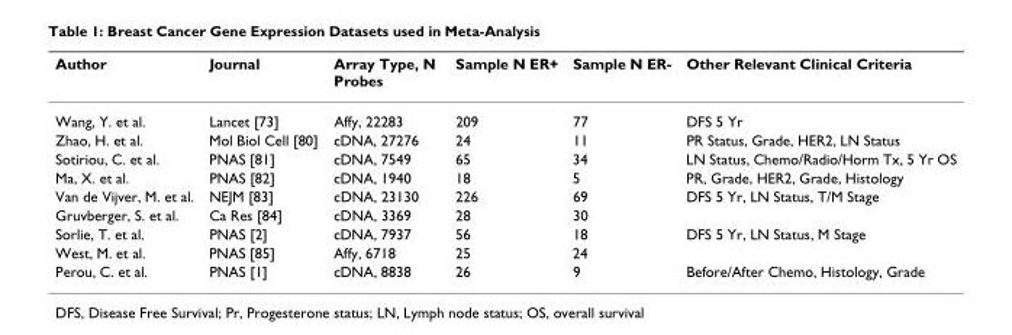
<table><thead><tr><td>Author</td><td>Journal</td><td>Array Type, N Probes</td><td>Sample N ER+</td><td>Sample N ER-</td><td>Other Relevant Clinical Criteria</td></tr></thead><tbody><tr><td>Wang, Y. et al.</td><td>Lancet [73]</td><td>Affy, 22283</td><td>209</td><td>77</td><td>DFS 5 Yr</td></tr><tr><td>Zhao, H. et al.</td><td>Mol Biol Cell [80]</td><td>cDNA, 27276</td><td>24</td><td>11</td><td>PR Status, Grade, HER2, LN Status</td></tr><tr><td>Sotiriou, C. et al.</td><td>PNAS [81]</td><td>cDNA, 7549</td><td>65</td><td>34</td><td>LN Status, Chemo/Radio/Horm Tx, 5 Yr OS</td></tr><tr><td>Ma, X. et al.</td><td>PNAS [82]</td><td>cDNA, 1940</td><td>18</td><td>5</td><td>PR, Grade, HER2, Grade, Histology</td></tr><tr><td>Van de Vijver, M. et al.</td><td>NEJM [83]</td><td>cDNA, 23130</td><td>226</td><td>69</td><td>DFS 5 Yr, LN Status, T/M Stage</td></tr><tr><td>Gruvberger, S. et al.</td><td>Ca Res [84]</td><td>cDNA, 3369</td><td>28</td><td>30</td><td></td></tr><tr><td>Sorlie, T. et al.</td><td>PNAS [2]</td><td>cDNA, 7937</td><td>56</td><td>18</td><td>DFS 5 Yr, LN Status, M Stage</td></tr><tr><td>West, M. et al.</td><td>PNAS [85]</td><td>Affy, 6718</td><td>25</td><td>24</td><td></td></tr><tr><td>Perou, C. et al.</td><td>PNAS [1]</td><td>cDNA, 8838</td><td>26</td><td>9</td><td>Before/After Chemo, Histology, Grade</td></tr></tbody></table>